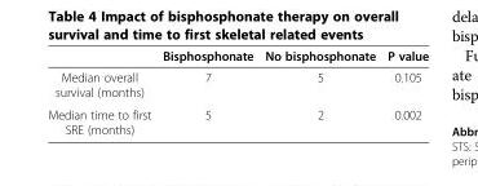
<table><thead><tr><td></td><td>Bisphosphonate</td><td>No bisphosphonate</td><td>P value</td></tr></thead><tbody><tr><td>Median overall survival (months)</td><td>7</td><td>5</td><td>0.105</td></tr><tr><td>Median time to first SRE (months)</td><td>5</td><td>2</td><td>0.002</td></tr></tbody></table>